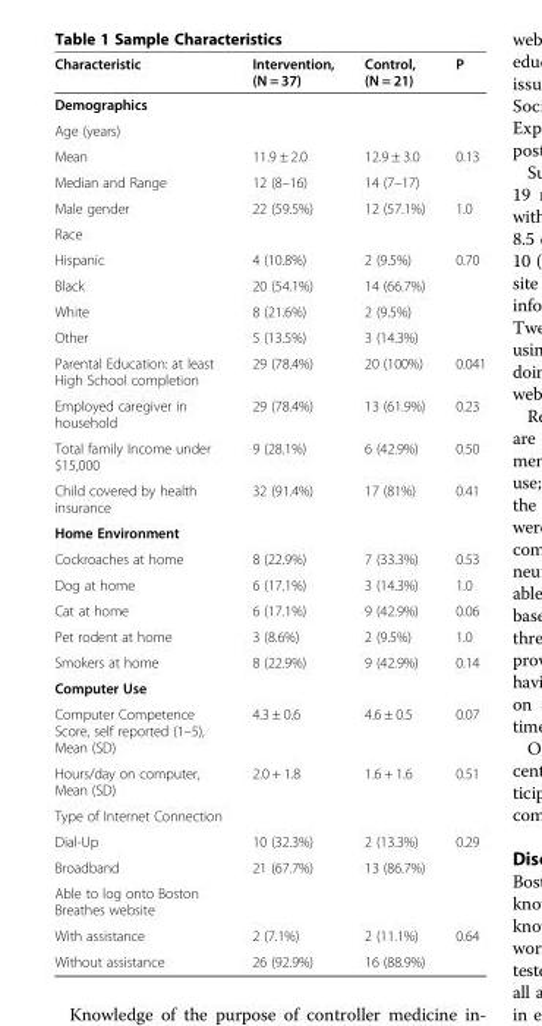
<table><thead><tr><td>Characteristic</td><td>Intervention, (N = 37)</td><td>Control, (N = 21)</td><td>P</td></tr></thead><tbody><tr><td colspan="4">Demographics</td></tr><tr><td colspan="4">Age (years)</td></tr><tr><td>Mean</td><td>11.9 ± 2.0</td><td>12.9 ± 3.0</td><td>0.13</td></tr><tr><td>Median and Range</td><td>12 (8–16)</td><td>14 (7–17)</td><td></td></tr><tr><td>Male gender</td><td>22 (59.5%)</td><td>12 (57.1%)</td><td>1.0</td></tr><tr><td colspan="4">Race</td></tr><tr><td>Hispanic</td><td>4 (10.8%)</td><td>2 (9.5%)</td><td>0.70</td></tr><tr><td>Black</td><td>20 (54.1%)</td><td>14 (66.7%)</td><td></td></tr><tr><td>White</td><td>8 (21.6%)</td><td>2 (9.5%)</td><td></td></tr><tr><td>Other</td><td>5 (13.5%)</td><td>3 (14.3%)</td><td></td></tr><tr><td>Parental Education: at least High School completion</td><td>29 (78.4%)</td><td>20 (100%)</td><td>0.041</td></tr><tr><td>Employed caregiver in household</td><td>29 (78.4%)</td><td>13 (61.9%)</td><td>0.23</td></tr><tr><td>Total family Income under $15,000</td><td>9 (28.1%)</td><td>6 (42.9%)</td><td>0.50</td></tr><tr><td>Child covered by health insurance</td><td>32 (91.4%)</td><td>17 (81%)</td><td>0.41</td></tr><tr><td colspan="4">Home Environment</td></tr><tr><td>Cockroaches at home</td><td>8 (22.9%)</td><td>7 (33.3%)</td><td>0.53</td></tr><tr><td>Dog at home</td><td>6 (17.1%)</td><td>3 (14.3%)</td><td>1.0</td></tr><tr><td>Cat at home</td><td>6 (17.1%)</td><td>9 (42.9%)</td><td>0.06</td></tr><tr><td>Pet rodent at home</td><td>3 (8.6%)</td><td>2 (9.5%)</td><td>1.0</td></tr><tr><td>Smokers at home</td><td>8 (22.9%)</td><td>9 (42.9%)</td><td>0.14</td></tr><tr><td colspan="4">Computer Use</td></tr><tr><td>Computer Competence Score, self reported (1–5), Mean (SD)</td><td>4.3 ± 0.6</td><td>4.6 ± 0.5</td><td>0.07</td></tr><tr><td>Hours/day on computer, Mean (SD)</td><td>2.0 + 1.8</td><td>1.6 + 1.6</td><td>0.51</td></tr><tr><td colspan="4">Type of Internet Connection</td></tr><tr><td>Dial-Up</td><td>10 (32.3%)</td><td>2 (13.3%)</td><td>0.29</td></tr><tr><td>Broadband</td><td>21 (67.7%)</td><td>13 (86.7%)</td><td></td></tr><tr><td colspan="4">Able to log onto Boston Breathes website</td></tr><tr><td>With assistance</td><td>2 (7.1%)</td><td>2 (11.1%)</td><td>0.64</td></tr><tr><td>Without assistance</td><td>26 (92.9%)</td><td>16 (88.9%)</td><td></td></tr></tbody></table>